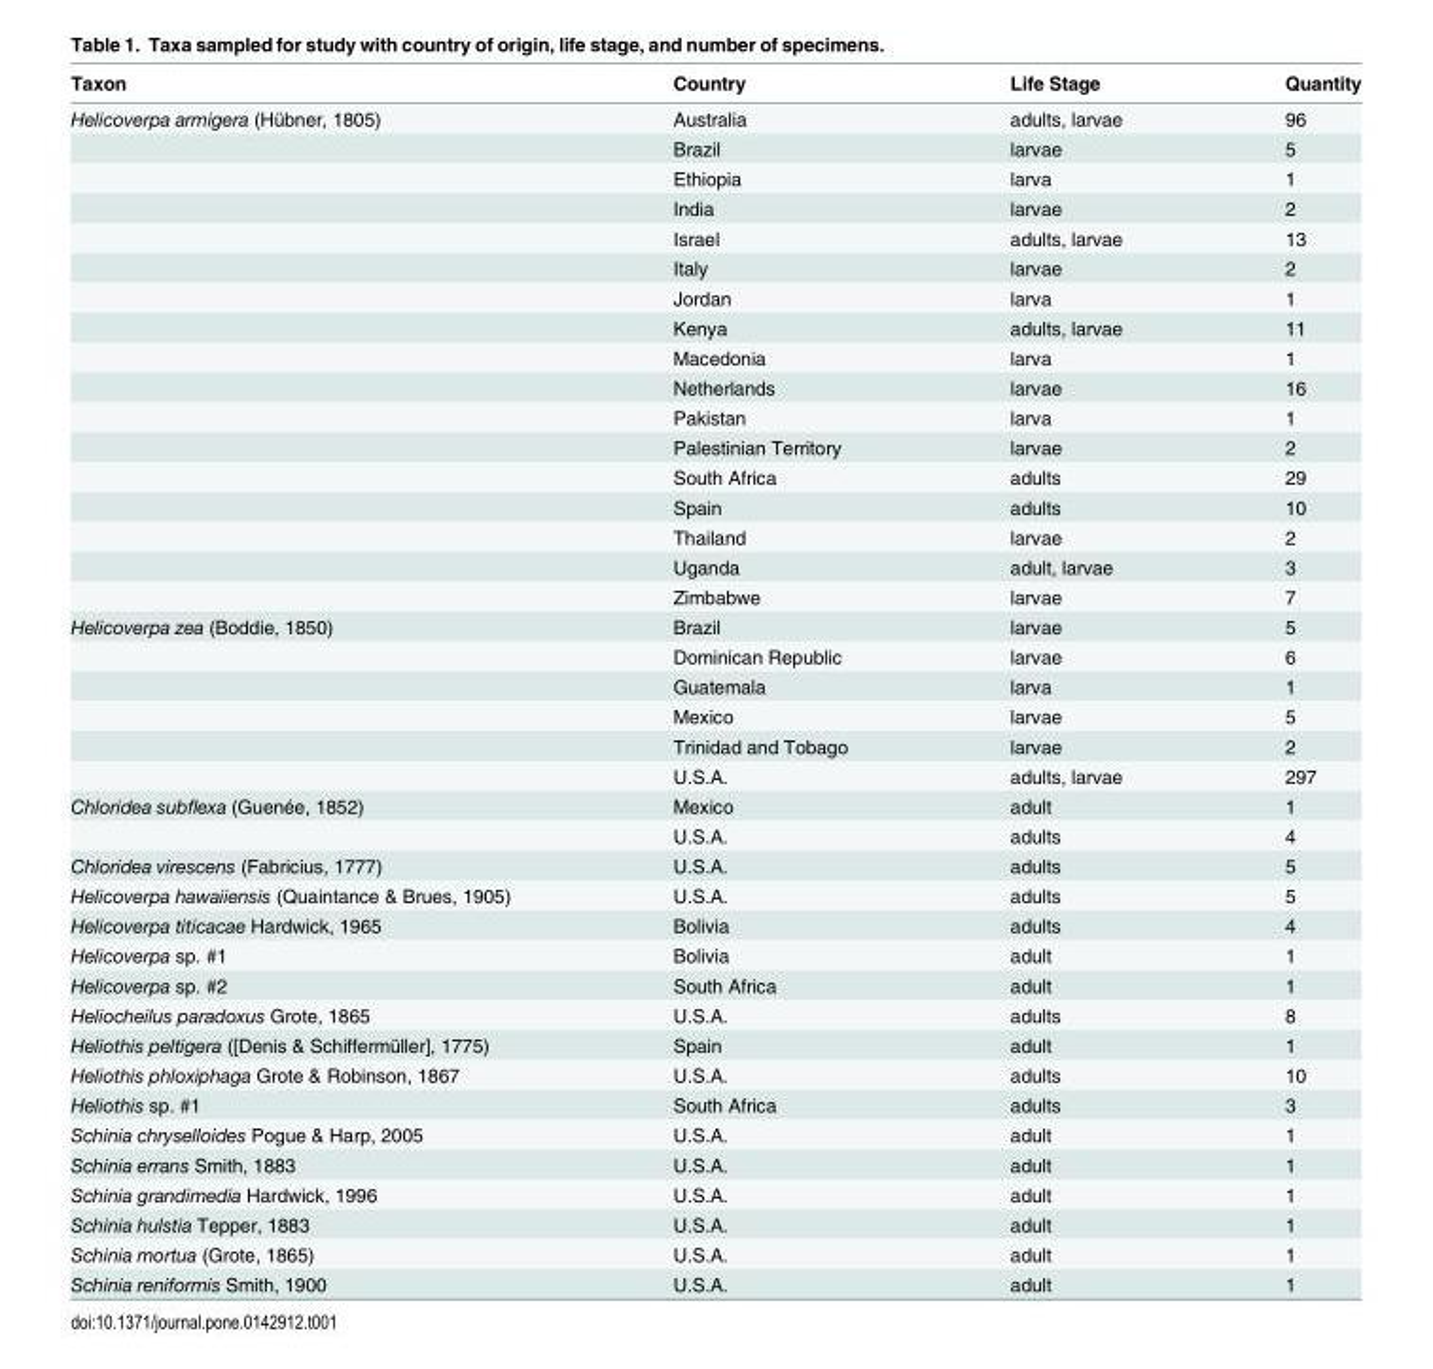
<table><thead><tr><td>Taxon</td><td>Country</td><td>Life Stage</td><td>Quantity</td></tr></thead><tbody><tr><td rowspan="17">Helicoverpa armigera (Hübner, 1805)</td><td>Australia</td><td>adults, larvae</td><td>96</td></tr><tr><td>Brazil</td><td>larvae</td><td>5</td></tr><tr><td>Ethiopia</td><td>larva</td><td>1</td></tr><tr><td>India</td><td>larvae</td><td>2</td></tr><tr><td>Israel</td><td>adults, larvae</td><td>13</td></tr><tr><td>Italy</td><td>larvae</td><td>2</td></tr><tr><td>Jordan</td><td>larva</td><td>1</td></tr><tr><td>Kenya</td><td>adults, larvae</td><td>11</td></tr><tr><td>Macedonia</td><td>larva</td><td>1</td></tr><tr><td>Netherlands</td><td>larvae</td><td>16</td></tr><tr><td>Pakistan</td><td>larva</td><td>1</td></tr><tr><td>Palestinian Territory</td><td>larvae</td><td>2</td></tr><tr><td>South Africa</td><td>adults</td><td>29</td></tr><tr><td>Spain</td><td>adults</td><td>10</td></tr><tr><td>Thailand</td><td>larvae</td><td>2</td></tr><tr><td>Uganda</td><td>adult, larvae</td><td>3</td></tr><tr><td>Zimbabwe</td><td>larvae</td><td>7</td></tr><tr><td rowspan="6">Helicoverpa zea (Boddie, 1850)</td><td>Brazil</td><td>larvae</td><td>5</td></tr><tr><td>Dominican Republic</td><td>larvae</td><td>6</td></tr><tr><td>Guatemala</td><td>larva</td><td>1</td></tr><tr><td>Mexico</td><td>larvae</td><td>5</td></tr><tr><td>Trinidad and Tobago</td><td>larvae</td><td>2</td></tr><tr><td>U.S.A.</td><td>adults, larvae</td><td>297</td></tr><tr><td rowspan="2">Chloridea subflexa (Guenée, 1852)</td><td>Mexico</td><td>adult</td><td>1</td></tr><tr><td>U.S.A.</td><td>adults</td><td>4</td></tr><tr><td>Chloridea virescens (Fabricius, 1777)</td><td>U.S.A.</td><td>adults</td><td>5</td></tr><tr><td>Helicoverpa hawaiiensis (Quaintance &amp; Brues, 1905)</td><td>U.S.A.</td><td>adults</td><td>5</td></tr><tr><td>Helicoverpa titicacae Hardwick, 1965</td><td>Bolivia</td><td>adults</td><td>4</td></tr><tr><td>Helicoverpa sp. #1</td><td>Bolivia</td><td>adult</td><td>1</td></tr><tr><td>Helicoverpa sp. #2</td><td>South Africa</td><td>adult</td><td>1</td></tr><tr><td>Heliocheilus paradoxus Grote, 1865</td><td>U.S.A.</td><td>adults</td><td>8</td></tr><tr><td>Heliothis peltigera ([Denis &amp; Schiffermüller], 1775)</td><td>Spain</td><td>adult</td><td>1</td></tr><tr><td>Heliothis phloxiphaga Grote &amp; Robinson, 1867</td><td>U.S.A.</td><td>adults</td><td>10</td></tr><tr><td>Heliothis sp. #1</td><td>South Africa</td><td>adults</td><td>3</td></tr><tr><td>Schinia chryselloides Pogue &amp; Harp, 2005</td><td>U.S.A.</td><td>adult</td><td>1</td></tr><tr><td>Schinia errans Smith, 1883</td><td>U.S.A.</td><td>adult</td><td>1</td></tr><tr><td>Schinia grandimedia Hardwick, 1996</td><td>U.S.A.</td><td>adult</td><td>1</td></tr><tr><td>Schinia hulstia Tepper, 1883</td><td>U.S.A.</td><td>adult</td><td>1</td></tr><tr><td>Schinia mortua (Grote, 1865)</td><td>U.S.A.</td><td>adult</td><td>1</td></tr><tr><td>Schinia reniformis Smith, 1900</td><td>U.S.A.</td><td>adult</td><td>1</td></tr></tbody></table>